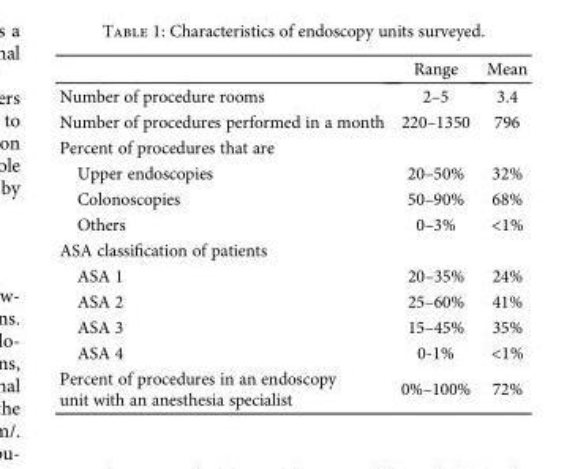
<table><thead><tr><td></td><td>Range</td><td>Mean</td></tr></thead><tbody><tr><td>Number of procedure rooms</td><td>2–5</td><td>3.4</td></tr><tr><td>Number of procedures performed in a month</td><td>220–1350</td><td>796</td></tr><tr><td colspan="3">Percent of procedures that are</td></tr><tr><td>Upper endoscopies</td><td>20–50%</td><td>32%</td></tr><tr><td>Colonoscopies</td><td>50–90%</td><td>68%</td></tr><tr><td>Others</td><td>0–3%</td><td>&lt;1%</td></tr><tr><td colspan="3">ASA classification of patients</td></tr><tr><td>ASA 1</td><td>20–35%</td><td>24%</td></tr><tr><td>ASA 2</td><td>25–60%</td><td>41%</td></tr><tr><td>ASA 3</td><td>15–45%</td><td>35%</td></tr><tr><td>ASA 4</td><td>0-1%</td><td>&lt;1%</td></tr><tr><td>Percent of procedures in an endoscopy unit with an anesthesia specialist</td><td>0%–100%</td><td>72%</td></tr></tbody></table>